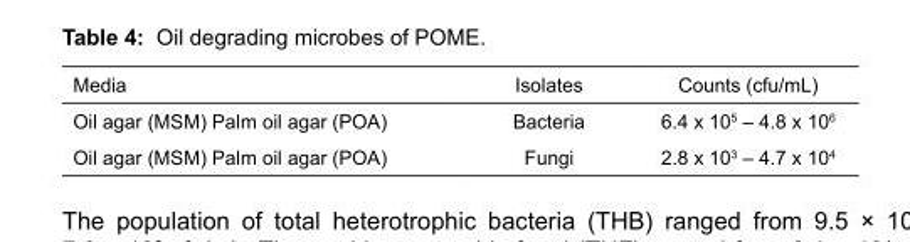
<table><thead><tr><td>Media</td><td>Isolates</td><td>Counts (cfu/mL)</td></tr></thead><tbody><tr><td>Oil agar (MSM) Palm oil agar (POA)</td><td>Bacteria</td><td>6.4 x 105 – 4.8 x 106</td></tr><tr><td>Oil agar (MSM) Palm oil agar (POA)</td><td>Fungi</td><td>2.8 x 103 – 4.7 x 104</td></tr></tbody></table>